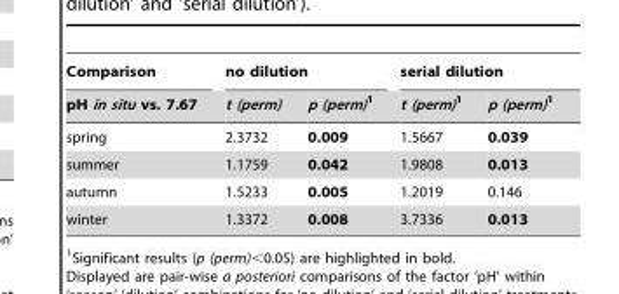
<table><thead><tr><td rowspan="2">Comparison pH in situ vs. 7.67</td><td colspan="2">no dilution</td><td colspan="2">serial dilution</td></tr><tr><td>t (perm)</td><td>p (perm)1</td><td>t (perm)1</td><td>p (perm)1</td></tr></thead><tbody><tr><td>spring</td><td>2.3732</td><td>0.009</td><td>1.5667</td><td>0.039</td></tr><tr><td>summer</td><td>1.1759</td><td>0.042</td><td>1.9808</td><td>0.013</td></tr><tr><td>autumn</td><td>1.5233</td><td>0.005</td><td>1.2019</td><td>0.146</td></tr><tr><td>winter</td><td>1.3372</td><td>0.008</td><td>3.7336</td><td>0.013</td></tr></tbody></table>